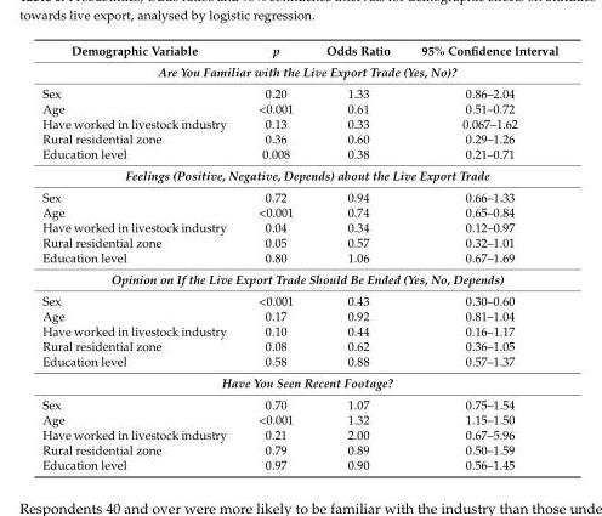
<table><thead><tr><td>Demographic Variable</td><td>p</td><td>Odds Ratio</td><td>95% Confidence Interval</td></tr></thead><tbody><tr><td colspan="4">Are You Familiar with the Live Export Trade (Yes, No)?</td></tr><tr><td>Sex</td><td>0.20</td><td>1.33</td><td>0.86–2.04</td></tr><tr><td>Age</td><td>&lt;0.001</td><td>0.61</td><td>0.51–0.72</td></tr><tr><td>Have worked in livestock industry</td><td>0.13</td><td>0.33</td><td>0.067–1.62</td></tr><tr><td>Rural residential zone</td><td>0.36</td><td>0.60</td><td>0.29–1.26</td></tr><tr><td>Education level</td><td>0.008</td><td>0.38</td><td>0.21–0.71</td></tr><tr><td colspan="4">Feelings (Positive, Negative, Depends) about the Live Export Trade</td></tr><tr><td>Sex</td><td>0.72</td><td>0.94</td><td>0.66–1.33</td></tr><tr><td>Age</td><td>&lt;0.001</td><td>0.74</td><td>0.65–0.84</td></tr><tr><td>Have worked in livestock industry</td><td>0.04</td><td>0.34</td><td>0.12–0.97</td></tr><tr><td>Rural residential zone</td><td>0.05</td><td>0.57</td><td>0.32–1.01</td></tr><tr><td>Education level</td><td>0.80</td><td>1.06</td><td>0.67–1.69</td></tr><tr><td colspan="4">Opinion on If the Live Export Trade Should Be Ended (Yes, No, Depends)</td></tr><tr><td>Sex</td><td>&lt;0.001</td><td>0.43</td><td>0.30–0.60</td></tr><tr><td>Age</td><td>0.17</td><td>0.92</td><td>0.81–1.04</td></tr><tr><td>Have worked in livestock industry</td><td>0.10</td><td>0.44</td><td>0.16–1.17</td></tr><tr><td>Rural residential zone</td><td>0.08</td><td>0.62</td><td>0.36–1.05</td></tr><tr><td>Education level</td><td>0.58</td><td>0.88</td><td>0.57–1.37</td></tr><tr><td colspan="4">Have You Seen Recent Footage?</td></tr><tr><td>Sex</td><td>0.70</td><td>1.07</td><td>0.75–1.54</td></tr><tr><td>Age</td><td>&lt;0.001</td><td>1.32</td><td>1.15–1.50</td></tr><tr><td>Have worked in livestock industry</td><td>0.21</td><td>2.00</td><td>0.67–5.96</td></tr><tr><td>Rural residential zone</td><td>0.79</td><td>0.89</td><td>0.50–1.59</td></tr><tr><td>Education level</td><td>0.97</td><td>0.90</td><td>0.56–1.45</td></tr></tbody></table>